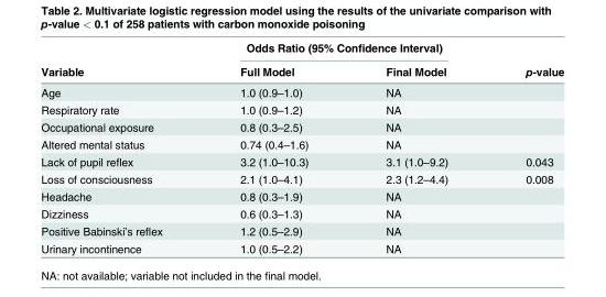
<table><thead><tr><td rowspan="2">Variable</td><td colspan="2">Odds Ratio (95% Confidence Interval)</td><td rowspan="2">p-value</td></tr><tr><td>Full Model</td><td>Final Model</td></tr></thead><tbody><tr><td>Age</td><td>1.0 (0.9–1.0)</td><td>NA</td><td></td></tr><tr><td>Respiratory rate</td><td>1.0 (0.9–1.2)</td><td>NA</td><td></td></tr><tr><td>Occupational exposure</td><td>0.8 (0.3–2.5)</td><td>NA</td><td></td></tr><tr><td>Altered mental status</td><td>0.74 (0.4–1.6)</td><td>NA</td><td></td></tr><tr><td>Lack of pupil reflex</td><td>3.2 (1.0–10.3)</td><td>3.1 (1.0–9.2)</td><td>0.043</td></tr><tr><td>Loss of consciousness</td><td>2.1 (1.0–4.1)</td><td>2.3 (1.2–4.4)</td><td>0.008</td></tr><tr><td>Headache</td><td>0.8 (0.3–1.9)</td><td>NA</td><td></td></tr><tr><td>Dizziness</td><td>0.6 (0.3–1.3)</td><td>NA</td><td></td></tr><tr><td>Positive Babinski’s reflex</td><td>1.2 (0.5–2.9)</td><td>NA</td><td></td></tr><tr><td>Urinary incontinence</td><td>1.0 (0.5–2.2)</td><td>NA</td><td></td></tr></tbody></table>